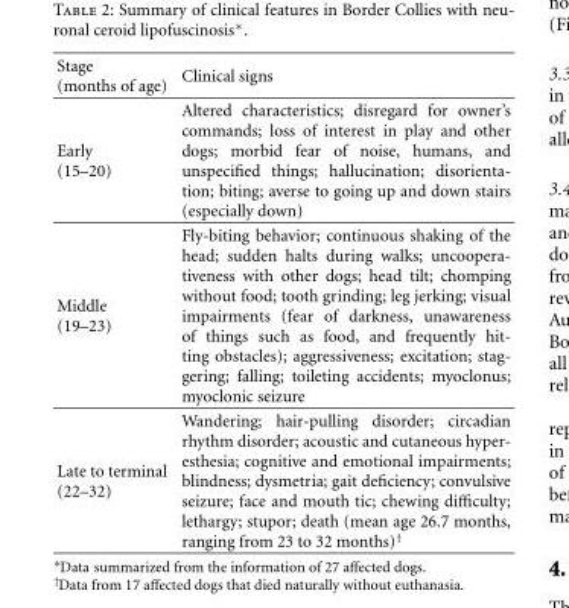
<table><thead><tr><td>Stage (months of age)</td><td>Clinical signs</td></tr></thead><tbody><tr><td>Early (15–20)</td><td>Altered characteristics; disregard for owner’s commands; loss of interest in play and other dogs; morbid fear of noise, humans, and unspecified things; hallucination; disorienta- tion; biting; averse to going up and down stairs (especially down)</td></tr><tr><td>Middle (19–23)</td><td>Fly-biting behavior; continuous shaking of the head; sudden halts during walks; uncoopera- tiveness with other dogs; head tilt; chomping without food; tooth grinding; leg jerking; visual impairments (fear of darkness, unawareness of things such as food, and frequently hit- ting obstacles); aggressiveness; excitation; stag- gering; falling; toileting accidents; myoclonus; myoclonic seizure</td></tr><tr><td>Late to terminal (22–32)</td><td>Wandering; hair-pulling disorder; circadian rhythm disorder; acoustic and cutaneous hyper- esthesia; cognitive and emotional impairments; blindness; dysmetria; gait deficiency; convulsive seizure; face and mouth tic; chewing difficulty; lethargy; stupor; death (mean age 26.7 months, ranging from 23 to 32 months)†</td></tr></tbody></table>